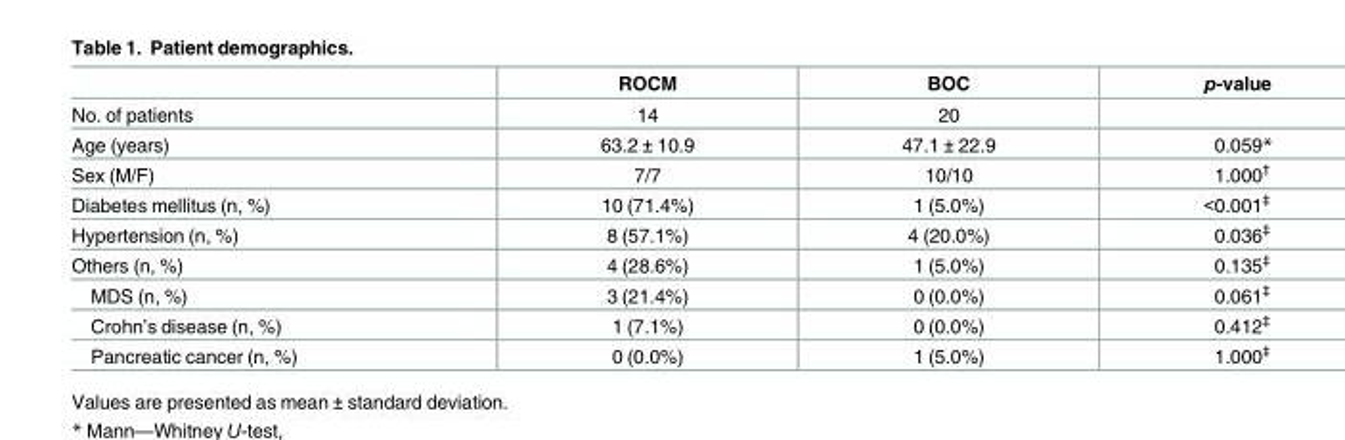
<table><thead><tr><td></td><td>ROCM</td><td>BOC</td><td>p-value</td></tr></thead><tbody><tr><td>No. of patients</td><td>14</td><td>20</td><td></td></tr><tr><td>Age (years)</td><td>63.2 ± 10.9</td><td>47.1 ± 22.9</td><td>0.059*</td></tr><tr><td>Sex (M/F)</td><td>7/7</td><td>10/10</td><td>1.000<sup>†</sup></td></tr><tr><td>Diabetes mellitus (n, %)</td><td>10 (71.4%)</td><td>1 (5.0%)</td><td>&lt;0.001<sup>‡</sup></td></tr><tr><td>Hypertension (n, %)</td><td>8 (57.1%)</td><td>4 (20.0%)</td><td>0.036<sup>‡</sup></td></tr><tr><td>Others (n, %)</td><td>4 (28.6%)</td><td>1 (5.0%)</td><td>0.135<sup>‡</sup></td></tr><tr><td>MDS (n, %)</td><td>3 (21.4%)</td><td>0 (0.0%)</td><td>0.061<sup>‡</sup></td></tr><tr><td>Crohn’s disease (n, %)</td><td>1 (7.1%)</td><td>0 (0.0%)</td><td>0.412<sup>‡</sup></td></tr><tr><td>Pancreatic cancer (n, %)</td><td>0 (0.0%)</td><td>1 (5.0%)</td><td>1.000<sup>‡</sup></td></tr></tbody></table>